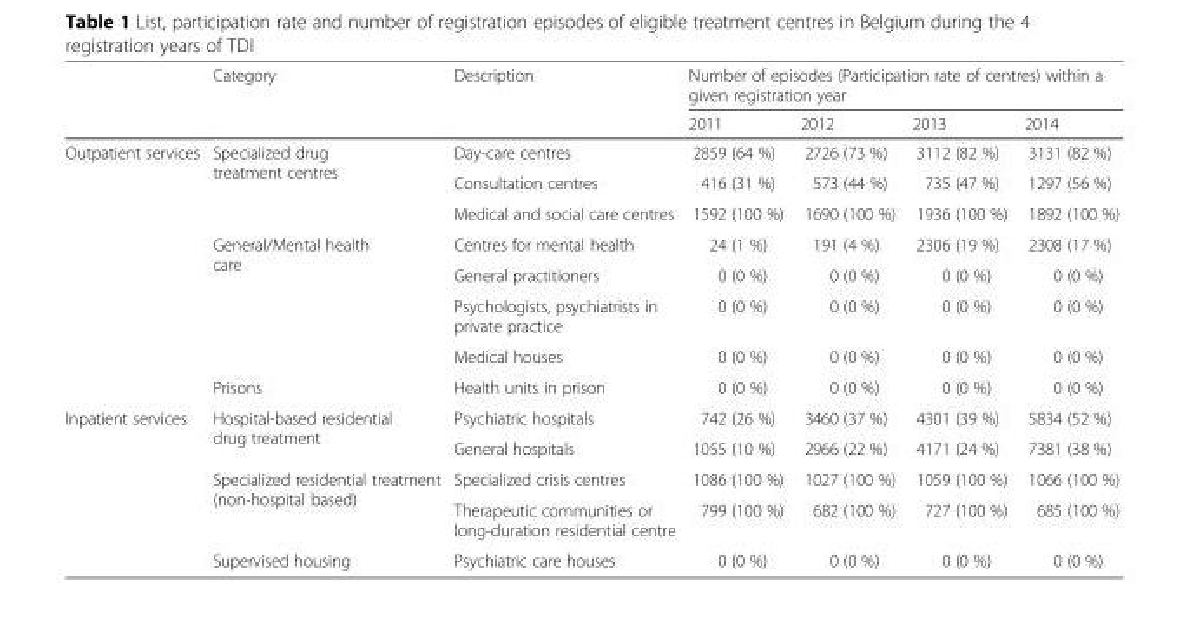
<table><thead><tr><td rowspan="2"></td><td rowspan="2">Category</td><td rowspan="2">Description</td><td colspan="4">Number of episodes (Participation rate of centres) within a given registration year</td></tr><tr><td>2011</td><td>2012</td><td>2013</td><td>2014</td></tr></thead><tbody><tr><td rowspan="8">Outpatient services</td><td rowspan="3">Specialized drug treatment centres</td><td>Day-care centres</td><td>2859 (64 %)</td><td>2726 (73 %)</td><td>3112 (82 %)</td><td>3131 (82 %)</td></tr><tr><td>Consultation centres</td><td>416 (31 %)</td><td>573 (44 %)</td><td>735 (47 %)</td><td>1297 (56 %)</td></tr><tr><td>Medical and social care centres</td><td>1592 (100 %)</td><td>1690 (100 %)</td><td>1936 (100 %)</td><td>1892 (100 %)</td></tr><tr><td rowspan="4">General/Mental health care</td><td>Centres for mental health</td><td>24 (1 %)</td><td>191 (4 %)</td><td>2306 (19 %)</td><td>2308 (17 %)</td></tr><tr><td>General practitioners</td><td>0 (0 %)</td><td>0 (0 %)</td><td>0 (0 %)</td><td>0 (0 %)</td></tr><tr><td>Psychologists, psychiatrists in private practice</td><td>0 (0 %)</td><td>0 (0 %)</td><td>0 (0 %)</td><td>0 (0 %)</td></tr><tr><td>Medical houses</td><td>0 (0 %)</td><td>0 (0 %)</td><td>0 (0 %)</td><td>0 (0 %)</td></tr><tr><td>Prisons</td><td>Health units in prison</td><td>0 (0 %)</td><td>0 (0 %)</td><td>0 (0 %)</td><td>0 (0 %)</td></tr><tr><td rowspan="5">Inpatient services</td><td rowspan="2">Hospital-based residential drug treatment</td><td>Psychiatric hospitals</td><td>742 (26 %)</td><td>3460 (37 %)</td><td>4301 (39 %)</td><td>5834 (52 %)</td></tr><tr><td>General hospitals</td><td>1055 (10 %)</td><td>2966 (22 %)</td><td>4171 (24 %)</td><td>7381 (38 %)</td></tr><tr><td rowspan="2">Specialized residential treatment (non-hospital based)</td><td>Specialized crisis centres</td><td>1086 (100 %)</td><td>1027 (100 %)</td><td>1059 (100 %)</td><td>1066 (100 %)</td></tr><tr><td>Therapeutic communities or long-duration residential centre</td><td>799 (100 %)</td><td>682 (100 %)</td><td>727 (100 %)</td><td>685 (100 %)</td></tr><tr><td>Supervised housing</td><td>Psychiatric care houses</td><td>0 (0 %)</td><td>0 (0 %)</td><td>0 (0 %)</td><td>0 (0 %)</td></tr></tbody></table>